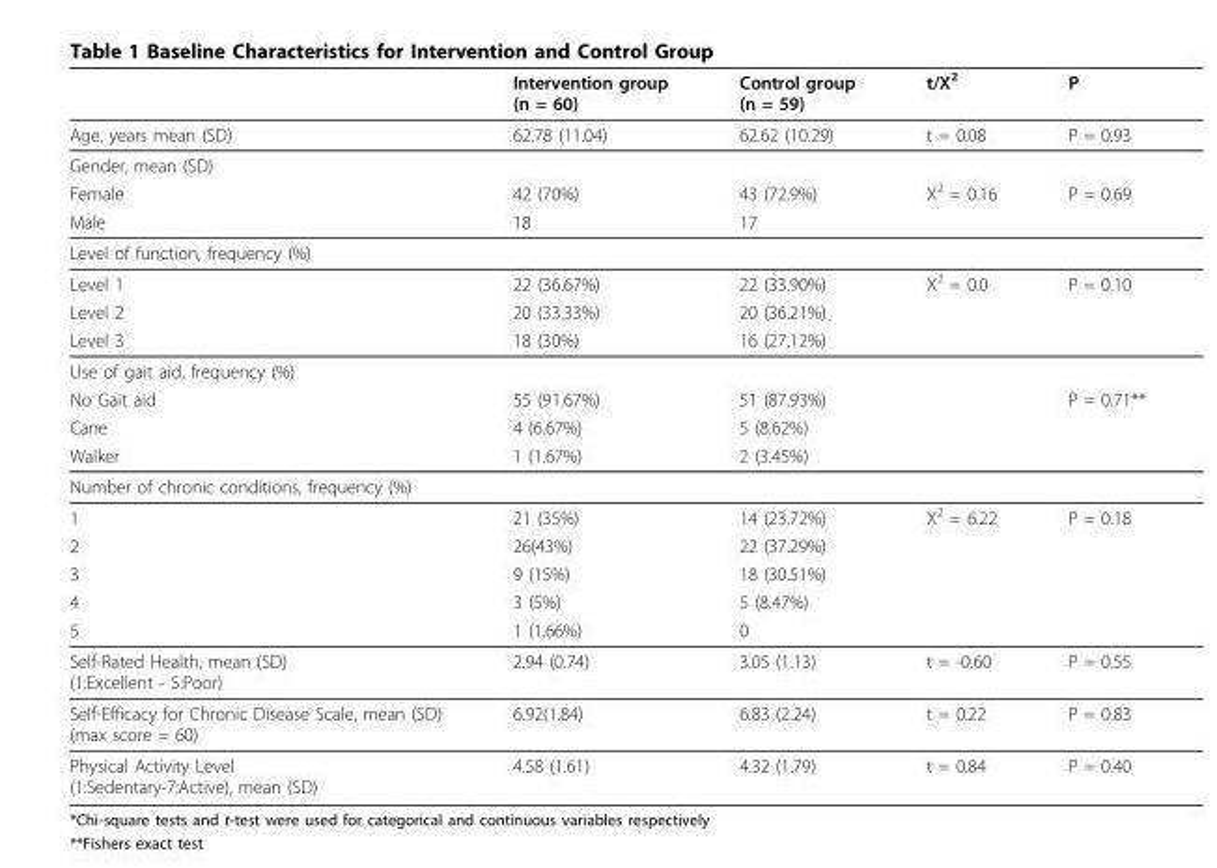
<table><thead><tr><td></td><td>Intervention group (n = 60)</td><td>Control group (n = 59)</td><td>t/X<sup>2</sup></td><td>P</td></tr></thead><tbody><tr><td>Age, years mean (SD)</td><td>62.78 (11.04)</td><td>62.62 (10.29)</td><td>t = 0.08</td><td>P = 0.93</td></tr><tr><td colspan="5">Gender, mean (SD)</td></tr><tr><td>Female</td><td>42 (70%)</td><td>43 (72.9%)</td><td>X<sup>2</sup> = 0.16</td><td>P = 0.69</td></tr><tr><td>Male</td><td>18</td><td>17</td><td></td><td></td></tr><tr><td colspan="5">Level of function, frequency (%)</td></tr><tr><td>Level 1</td><td>22 (36.67%)</td><td>22 (33.90%)</td><td>X<sup>2</sup> = 0.0</td><td>P = 0.10</td></tr><tr><td>Level 2</td><td>20 (33.33%)</td><td>20 (36.21%)</td><td></td><td></td></tr><tr><td>Level 3</td><td>18 (30%)</td><td>16 (27.12%)</td><td></td><td></td></tr><tr><td colspan="5">Use of gait aid, frequency (%)</td></tr><tr><td>No Gait aid</td><td>55 (91.67%)</td><td>51 (87.93%)</td><td></td><td>P = 0.71**</td></tr><tr><td>Cane</td><td>4 (6.67%)</td><td>5 (8.62%)</td><td></td><td></td></tr><tr><td>Walker</td><td>1 (1.67%)</td><td>2 (3.45%)</td><td></td><td></td></tr><tr><td colspan="5">Number of chronic conditions, frequency (%)</td></tr><tr><td>1</td><td>21 (35%)</td><td>14 (23.72%)</td><td>X<sup>2</sup> = 6.22</td><td>P = 0.18</td></tr><tr><td>2</td><td>26(43%)</td><td>22 (37.29%)</td><td></td><td></td></tr><tr><td>3</td><td>9 (15%)</td><td>18 (30.51%)</td><td></td><td></td></tr><tr><td>4</td><td>3 (5%)</td><td>5 (8.47%)</td><td></td><td></td></tr><tr><td>5</td><td>1 (1.66%)</td><td>0</td><td></td><td></td></tr><tr><td>Self-Rated Health, mean (SD) (1:Excellent - 5:Poor)</td><td>2.94 (0.74)</td><td>3.05 (1.13)</td><td>t = -0.60</td><td>P = 0.55</td></tr><tr><td>Self-Efficacy for Chronic Disease Scale, mean (SD) (max score = 60)</td><td>6.92(1.84)</td><td>6.83 (2.24)</td><td>t = 0.22</td><td>P = 0.83</td></tr><tr><td>Physical Activity Level (1:Sedentary-7:Active), mean (SD)</td><td>4.58 (1.61)</td><td>4.32 (1.79)</td><td>t = 0.84</td><td>P = 0.40</td></tr></tbody></table>